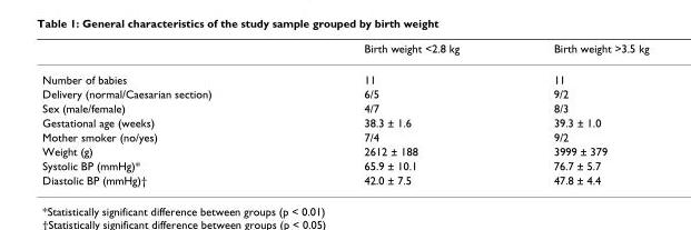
<table><thead><tr><td></td><td>Birth weight &lt;2.8 kg</td><td>Birth weight &gt;3.5 kg</td></tr></thead><tbody><tr><td>Number of babies</td><td>11</td><td>11</td></tr><tr><td>Delivery (normal/Caesarian section)</td><td>6/5</td><td>9/2</td></tr><tr><td>Sex (male/female)</td><td>4/7</td><td>8/3</td></tr><tr><td>Gestational age (weeks)</td><td>38.3 ± 1.6</td><td>39.3 ± 1.0</td></tr><tr><td>Mother smoker (no/yes)</td><td>7/4</td><td>9/2</td></tr><tr><td>Weight (g)</td><td>2612 ± 188</td><td>3999 ± 379</td></tr><tr><td>Systolic BP (mmHg)*</td><td>65.9 ± 10.1</td><td>76.7 ± 5.7</td></tr><tr><td>Diastolic BP (mmHg)†</td><td>42.0 ± 7.5</td><td>47.8 ± 4.4</td></tr></tbody></table>